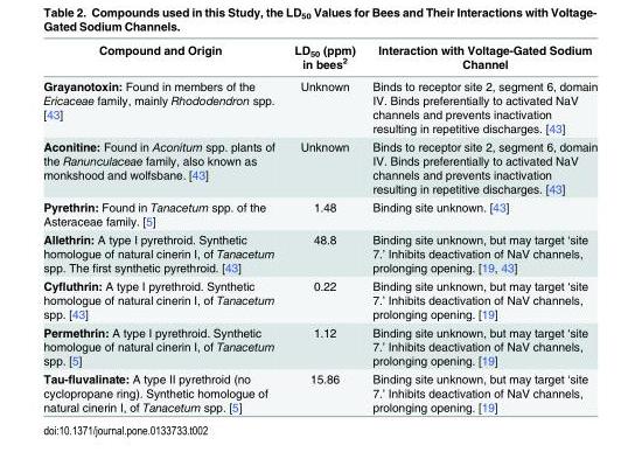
<table><thead><tr><td>Compound and Origin</td><td>LD<sub>50</sub> (ppm) in bees<sup>2</sup></td><td>Interaction with Voltage-Gated Sodium Channel</td></tr></thead><tbody><tr><td>Grayanotoxin: Found in members of the Ericaceae family, mainly Rhododendron spp. [43]</td><td>Unknown</td><td>Binds to receptor site 2, segment 6, domain IV. Binds preferentially to activated NaV channels and prevents inactivation resulting in repetitive discharges. [43]</td></tr><tr><td>Aconitine: Found in Aconitum spp. plants of the Ranunculaceae family, also known as monkshood and wolfsbane. [43]</td><td>Unknown</td><td>Binds to receptor site 2, segment 6, domain IV. Binds preferentially to activated NaV channels and prevents inactivation resulting in repetitive discharges. [43]</td></tr><tr><td>Pyrethrin: Found in Tanacetum spp. of the Asteraceae family. [5]</td><td>1.48</td><td>Binding site unknown. [43]</td></tr><tr><td>Allethrin: A type I pyrethroid. Synthetic homologue of natural cinerin I, of Tanacetum spp. The first synthetic pyrethroid. [43]</td><td>48.8</td><td>Binding site unknown, but may target ‘site 7.’ Inhibits deactivation of NaV channels, prolonging opening. [19, 43]</td></tr><tr><td>Cyfluthrin: A type I pyrethroid. Synthetic homologue of natural cinerin I, of Tanacetum spp. [43]</td><td>0.22</td><td>Binding site unknown, but may target ‘site 7.’ Inhibits deactivation of NaV channels, prolonging opening. [19]</td></tr><tr><td>Permethrin: A type I pyrethroid. Synthetic homologue of natural cinerin I, of Tanacetum spp. [5]</td><td>1.12</td><td>Binding site unknown, but may target ‘site 7.’ Inhibits deactivation of NaV channels, prolonging opening. [19]</td></tr><tr><td>Tau-fluvalinate: A type II pyrethroid (no cyclopropane ring). Synthetic homologue of natural cinerin I, of Tanacetum spp. [5]</td><td>15.86</td><td>Binding site unknown, but may target ‘site 7.’ Inhibits deactivation of NaV channels, prolonging opening. [19]</td></tr></tbody></table>